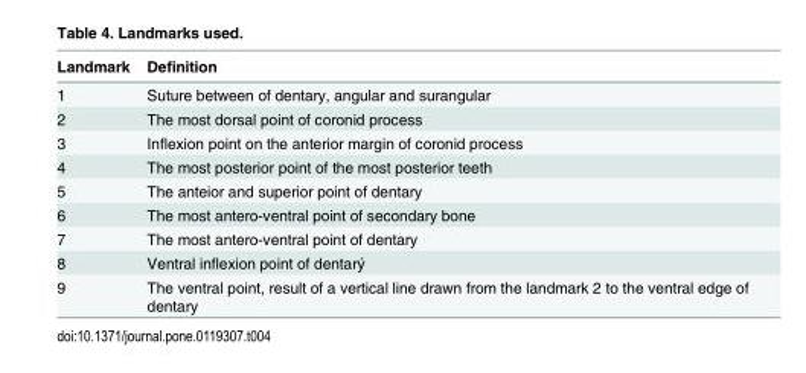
<table><thead><tr><td>Landmark</td><td>Definition</td></tr></thead><tbody><tr><td>1</td><td>Suture between of dentary, angular and surangular</td></tr><tr><td>2</td><td>The most dorsal point of coronid process</td></tr><tr><td>3</td><td>Inflexion point on the anterior margin of coronid process</td></tr><tr><td>4</td><td>The most posterior point of the most posterior teeth</td></tr><tr><td>5</td><td>The anteior and superior point of dentary</td></tr><tr><td>6</td><td>The most antero-ventral point of secondary bone</td></tr><tr><td>7</td><td>The most antero-ventral point of dentary</td></tr><tr><td>8</td><td>Ventral inflexion point of dentarý</td></tr><tr><td>9</td><td>The ventral point, result of a vertical line drawn from the landmark 2 to the ventral edge of dentary</td></tr></tbody></table>